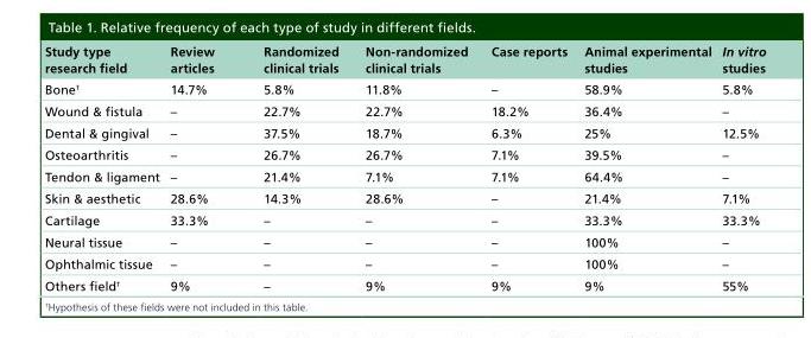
<table><thead><tr><td>Study type research field</td><td>Review articles</td><td>Randomized clinical trials</td><td>Non-randomized clinical trials</td><td>Case reports</td><td>Animal experimental studies</td><td>In vitro studies</td></tr></thead><tbody><tr><td>Bone<sup>†</sup></td><td>14.7%</td><td>5.8%</td><td>11.8%</td><td>–</td><td>58.9%</td><td>5.8%</td></tr><tr><td>Wound &amp; fistula</td><td>–</td><td>22.7%</td><td>22.7%</td><td>18.2%</td><td>36.4%</td><td>–</td></tr><tr><td>Dental &amp; gingival</td><td>–</td><td>37.5%</td><td>18.7%</td><td>6.3%</td><td>25%</td><td>12.5%</td></tr><tr><td>Osteoarthritis</td><td>–</td><td>26.7%</td><td>26.7%</td><td>7.1%</td><td>39.5%</td><td>–</td></tr><tr><td>Tendon &amp; ligament</td><td>–</td><td>21.4%</td><td>7.1%</td><td>7.1%</td><td>64.4%</td><td>–</td></tr><tr><td>Skin &amp; aesthetic</td><td>28.6%</td><td>14.3%</td><td>28.6%</td><td>–</td><td>21.4%</td><td>7.1%</td></tr><tr><td>Cartilage</td><td>33.3%</td><td>–</td><td>–</td><td>–</td><td>33.3%</td><td>33.3%</td></tr><tr><td>Neural tissue</td><td>–</td><td>–</td><td>–</td><td>–</td><td>100%</td><td>–</td></tr><tr><td>Ophthalmic tissue</td><td>–</td><td>–</td><td>–</td><td>–</td><td>100%</td><td>–</td></tr><tr><td>Others field<sup>†</sup></td><td>9%</td><td>–</td><td>9%</td><td>9%</td><td>9%</td><td>55%</td></tr></tbody></table>